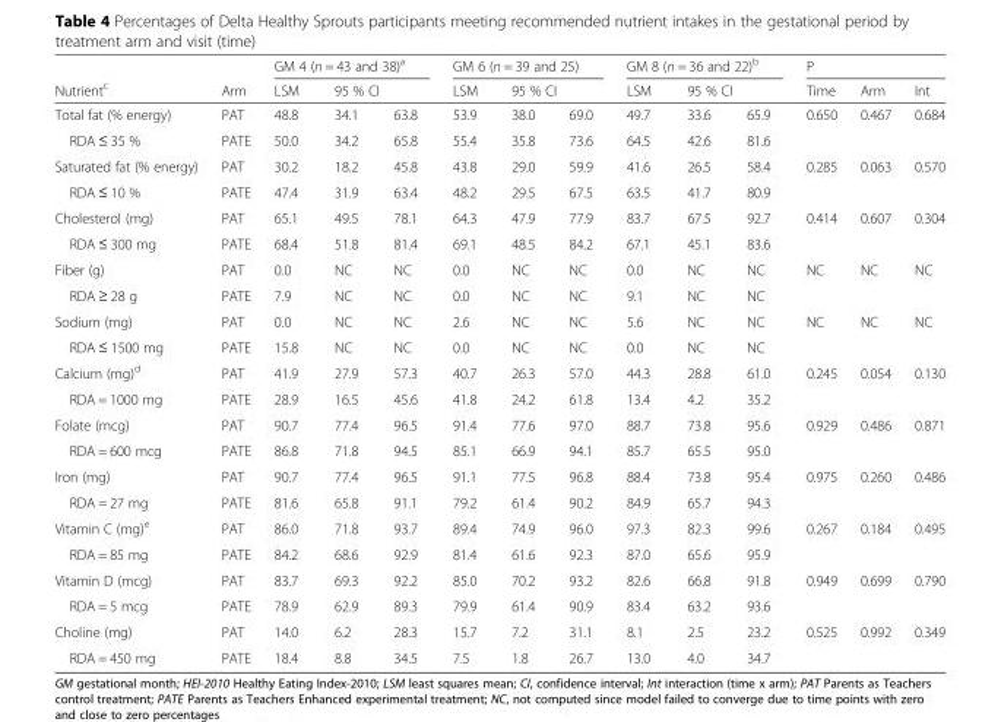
<table><thead><tr><td rowspan="3">Nutrient<sup>c</sup> Total fat (% energy)</td><td rowspan="3">Arm PAT</td><td colspan="3">GM 4 (n = 43 and 38)<sup>a</sup></td><td colspan="3">GM 6 (n = 39 and 25)</td><td colspan="3">GM 8 (n = 36 and 22)<sup>b</sup></td><td colspan="3">P</td></tr><tr><td rowspan="2">LSM 48.8</td><td colspan="2">95 % CI</td><td rowspan="2">LSM 53.9</td><td colspan="2">95 % CI</td><td rowspan="2">LSM 49.7</td><td colspan="2">95 % CI</td><td rowspan="2">Time 0.650</td><td rowspan="2">Arm 0.467</td><td rowspan="2">Int 0.684</td></tr><tr><td>34.1</td><td>63.8</td><td>38.0</td><td>69.0</td><td>33.6</td><td>65.9</td></tr></thead><tbody><tr><td>RDA ≤ 35 %</td><td>PATE</td><td>50.0</td><td>34.2</td><td>65.8</td><td>55.4</td><td>35.8</td><td>73.6</td><td>64.5</td><td>42.6</td><td>81.6</td><td></td><td></td><td></td></tr><tr><td>Saturated fat (% energy)</td><td>PAT</td><td>30.2</td><td>18.2</td><td>45.8</td><td>43.8</td><td>29.0</td><td>59.9</td><td>41.6</td><td>26.5</td><td>58.4</td><td>0.285</td><td>0.063</td><td>0.570</td></tr><tr><td>RDA ≤ 10 %</td><td>PATE</td><td>47.4</td><td>31.9</td><td>63.4</td><td>48.2</td><td>29.5</td><td>67.5</td><td>63.5</td><td>41.7</td><td>80.9</td><td></td><td></td><td></td></tr><tr><td>Cholesterol (mg)</td><td>PAT</td><td>65.1</td><td>49.5</td><td>78.1</td><td>64.3</td><td>47.9</td><td>77.9</td><td>83.7</td><td>67.5</td><td>92.7</td><td>0.414</td><td>0.607</td><td>0.304</td></tr><tr><td>RDA ≤ 300 mg</td><td>PATE</td><td>68.4</td><td>51.8</td><td>81.4</td><td>69.1</td><td>48.5</td><td>84.2</td><td>67.1</td><td>45.1</td><td>83.6</td><td></td><td></td><td></td></tr><tr><td>Fiber (g)</td><td>PAT</td><td>0.0</td><td>NC</td><td>NC</td><td>0.0</td><td>NC</td><td>NC</td><td>0.0</td><td>NC</td><td>NC</td><td>NC</td><td>NC</td><td>NC</td></tr><tr><td>RDA ≥ 28 g</td><td>PATE</td><td>7.9</td><td>NC</td><td>NC</td><td>0.0</td><td>NC</td><td>NC</td><td>9.1</td><td>NC</td><td>NC</td><td></td><td></td><td></td></tr><tr><td>Sodium (mg)</td><td>PAT</td><td>0.0</td><td>NC</td><td>NC</td><td>2.6</td><td>NC</td><td>NC</td><td>5.6</td><td>NC</td><td>NC</td><td>NC</td><td>NC</td><td>NC</td></tr><tr><td>RDA ≤ 1500 mg</td><td>PATE</td><td>15.8</td><td>NC</td><td>NC</td><td>0.0</td><td>NC</td><td>NC</td><td>0.0</td><td>NC</td><td>NC</td><td></td><td></td><td></td></tr><tr><td>Calcium (mg)<sup>d</sup></td><td>PAT</td><td>41.9</td><td>27.9</td><td>57.3</td><td>40.7</td><td>26.3</td><td>57.0</td><td>44.3</td><td>28.8</td><td>61.0</td><td>0.245</td><td>0.054</td><td>0.130</td></tr><tr><td>RDA = 1000 mg</td><td>PATE</td><td>28.9</td><td>16.5</td><td>45.6</td><td>41.8</td><td>24.2</td><td>61.8</td><td>13.4</td><td>4.2</td><td>35.2</td><td></td><td></td><td></td></tr><tr><td>Folate (mcg)</td><td>PAT</td><td>90.7</td><td>77.4</td><td>96.5</td><td>91.4</td><td>77.6</td><td>97.0</td><td>88.7</td><td>73.8</td><td>95.6</td><td>0.929</td><td>0.486</td><td>0.871</td></tr><tr><td>RDA = 600 mcg</td><td>PATE</td><td>86.8</td><td>71.8</td><td>94.5</td><td>85.1</td><td>66.9</td><td>94.1</td><td>85.7</td><td>65.5</td><td>95.0</td><td></td><td></td><td></td></tr><tr><td>Iron (mg)</td><td>PAT</td><td>90.7</td><td>77.4</td><td>96.5</td><td>91.1</td><td>77.5</td><td>96.8</td><td>88.4</td><td>73.8</td><td>95.4</td><td>0.975</td><td>0.260</td><td>0.486</td></tr><tr><td>RDA = 27 mg</td><td>PATE</td><td>81.6</td><td>65.8</td><td>91.1</td><td>79.2</td><td>61.4</td><td>90.2</td><td>84.9</td><td>65.7</td><td>94.3</td><td></td><td></td><td></td></tr><tr><td>Vitamin C (mg)<sup>e</sup></td><td>PAT</td><td>86.0</td><td>71.8</td><td>93.7</td><td>89.4</td><td>74.9</td><td>96.0</td><td>97.3</td><td>82.3</td><td>99.6</td><td>0.267</td><td>0.184</td><td>0.495</td></tr><tr><td>RDA = 85 mg</td><td>PATE</td><td>84.2</td><td>68.6</td><td>92.9</td><td>81.4</td><td>61.6</td><td>92.3</td><td>87.0</td><td>65.6</td><td>95.9</td><td></td><td></td><td></td></tr><tr><td>Vitamin D (mcg)</td><td>PAT</td><td>83.7</td><td>69.3</td><td>92.2</td><td>85.0</td><td>70.2</td><td>93.2</td><td>82.6</td><td>66.8</td><td>91.8</td><td>0.949</td><td>0.699</td><td>0.790</td></tr><tr><td>RDA = 5 mcg</td><td>PATE</td><td>78.9</td><td>62.9</td><td>89.3</td><td>79.9</td><td>61.4</td><td>90.9</td><td>83.4</td><td>63.2</td><td>93.6</td><td></td><td></td><td></td></tr><tr><td>Choline (mg)</td><td>PAT</td><td>14.0</td><td>6.2</td><td>28.3</td><td>15.7</td><td>7.2</td><td>31.1</td><td>8.1</td><td>2.5</td><td>23.2</td><td>0.525</td><td>0.992</td><td>0.349</td></tr><tr><td>RDA = 450 mg</td><td>PATE</td><td>18.4</td><td>8.8</td><td>34.5</td><td>7.5</td><td>1.8</td><td>26.7</td><td>13.0</td><td>4.0</td><td>34.7</td><td></td><td></td><td></td></tr></tbody></table>